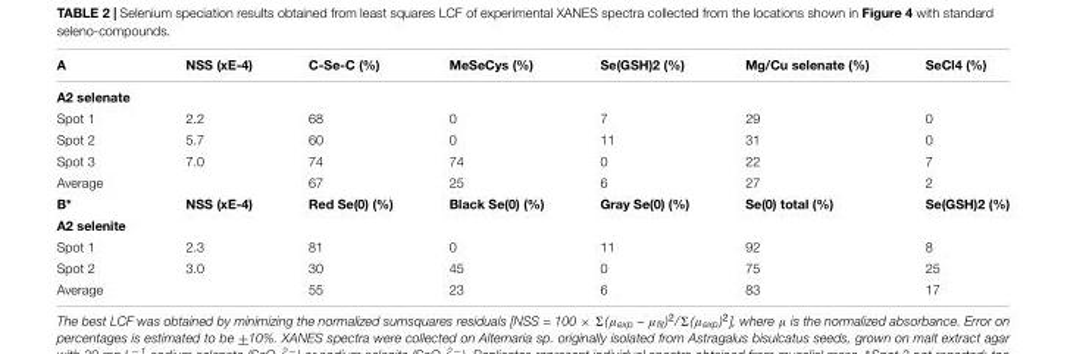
<table><thead><tr><td>A</td><td>NSS (xE-4)</td><td>C-Se-C (%)</td><td>MeSeCys (%)</td><td>Se(GSH)2 (%)</td><td>Mg/Cu selenate (%)</td><td>SeCl4 (%)</td></tr></thead><tbody><tr><td colspan="7">A2 selenate</td></tr><tr><td>Spot 1</td><td>2.2</td><td>68</td><td>0</td><td>7</td><td>29</td><td>0</td></tr><tr><td>Spot 2</td><td>5.7</td><td>60</td><td>0</td><td>11</td><td>31</td><td>0</td></tr><tr><td>Spot 3</td><td>7.0</td><td>74</td><td>74</td><td>0</td><td>22</td><td>7</td></tr><tr><td>Average</td><td></td><td>67</td><td>25</td><td>6</td><td>27</td><td>2</td></tr><tr><td>B∗</td><td>NSS (xE-4)</td><td>Red Se(0) (%)</td><td>Black Se(0) (%)</td><td>Gray Se(0) (%)</td><td>Se(0) total (%)</td><td>Se(GSH)2 (%)</td></tr><tr><td colspan="7">A2 selenite</td></tr><tr><td>Spot 1</td><td>2.3</td><td>81</td><td>0</td><td>11</td><td>92</td><td>8</td></tr><tr><td>Spot 2</td><td>3.0</td><td>30</td><td>45</td><td>0</td><td>75</td><td>25</td></tr><tr><td>Average</td><td></td><td>55</td><td>23</td><td>6</td><td>83</td><td>17</td></tr></tbody></table>